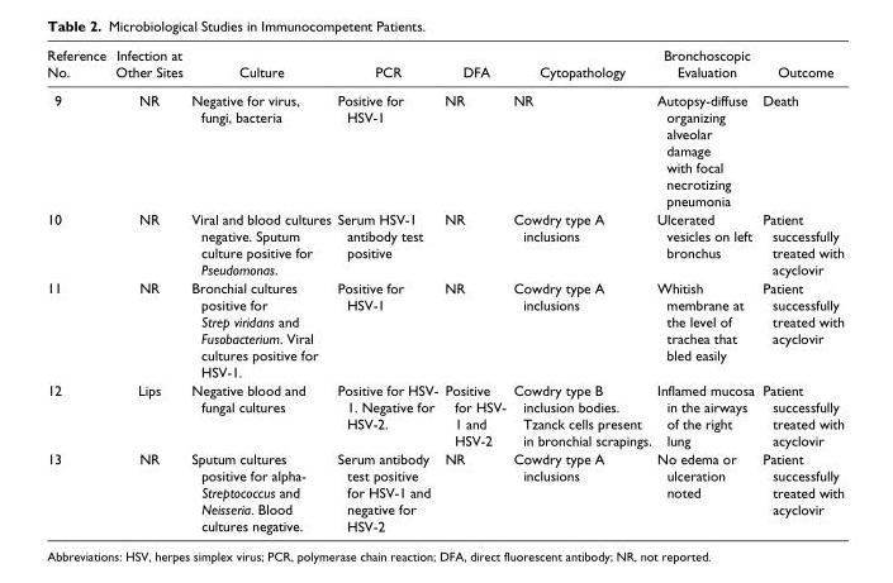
<table><thead><tr><td>Reference No.</td><td>Infection at Other Sites</td><td>Culture</td><td>PCR</td><td>DFA</td><td>Cytopathology</td><td>Bronchoscopic Evaluation</td><td>Outcome</td></tr></thead><tbody><tr><td>9</td><td>NR</td><td>Negative for virus, fungi, bacteria</td><td>Positive for HSV-1</td><td>NR</td><td>NR</td><td>Autopsy-diffuse organizing alveolar damage with focal necrotizing pneumonia</td><td>Death</td></tr><tr><td>10</td><td>NR</td><td>Viral and blood cultures negative. Sputum culture positive for Pseudomonas.</td><td>Serum HSV-1 antibody test positive</td><td>NR</td><td>Cowdry type A inclusions</td><td>Ulcerated vesicles on left bronchus</td><td>Patient successfully treated with acyclovir</td></tr><tr><td>11</td><td>NR</td><td>Bronchial cultures positive for Strep viridans and Fusobacterium. Viral cultures positive for HSV-1.</td><td>Positive for HSV-1</td><td>NR</td><td>Cowdry type A inclusions</td><td>Whitish membrane at the level of trachea that bled easily</td><td>Patient successfully treated with acyclovir</td></tr><tr><td>12</td><td>Lips</td><td>Negative blood and fungal cultures</td><td>Positive for HSV- 1. Negative for HSV-2.</td><td>Positive for HSV- 1 and HSV-2</td><td>Cowdry type B inclusion bodies. Tzanck cells present in bronchial scrapings.</td><td>Inflamed mucosa in the airways of the right lung</td><td>Patient successfully treated with acyclovir</td></tr><tr><td>13</td><td>NR</td><td>Sputum cultures positive for alpha- Streptococcus and Neisseria. Blood cultures negative.</td><td>Serum antibody test positive for HSV-1 and negative for HSV-2</td><td>NR</td><td>Cowdry type A inclusions</td><td>No edema or ulceration noted</td><td>Patient successfully treated with acyclovir</td></tr></tbody></table>